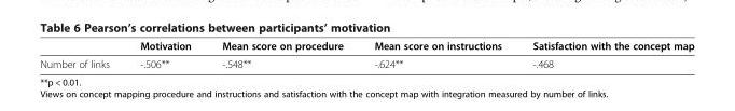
<table><thead><tr><td></td><td>Motivation</td><td>Mean score on procedure</td><td>Mean score on instructions</td><td>Satisfaction with the concept map</td></tr></thead><tbody><tr><td>Number of links</td><td>-.506**</td><td>-.548**</td><td>-.624**</td><td>-.468</td></tr></tbody></table>